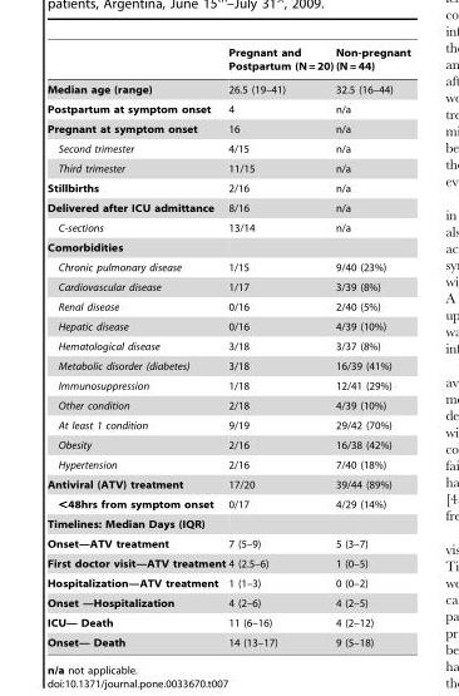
<table><thead><tr><td></td><td>Pregnant and Postpartum (N = 20)</td><td>Non-pregnant (N = 44)</td></tr></thead><tbody><tr><td>Median age (range)</td><td>26.5 (19–41)</td><td>32.5 (16–44)</td></tr><tr><td>Postpartum at symptom onset</td><td>4</td><td>n/a</td></tr><tr><td>Pregnant at symptom onset</td><td>16</td><td>n/a</td></tr><tr><td>Second trimester</td><td>4/15</td><td>n/a</td></tr><tr><td>Third trimester</td><td>11/15</td><td>n/a</td></tr><tr><td>Stillbirths</td><td>2/16</td><td>n/a</td></tr><tr><td>Delivered after ICU admittance</td><td>8/16</td><td>n/a</td></tr><tr><td>C-sections</td><td>13/14</td><td>n/a</td></tr><tr><td colspan="3">Comorbidities</td></tr><tr><td>Chronic pulmonary disease</td><td>1/15</td><td>9/40 (23%)</td></tr><tr><td>Cardiovascular disease</td><td>1/17</td><td>3/39 (8%)</td></tr><tr><td>Renal disease</td><td>0/16</td><td>2/40 (5%)</td></tr><tr><td>Hepatic disease</td><td>0/16</td><td>4/39 (10%)</td></tr><tr><td>Hematological disease</td><td>3/18</td><td>3/37 (8%)</td></tr><tr><td>Metabolic disorder (diabetes)</td><td>3/18</td><td>16/39 (41%)</td></tr><tr><td>Immunosuppression</td><td>1/18</td><td>12/41 (29%)</td></tr><tr><td>Other condition</td><td>2/18</td><td>4/39 (10%)</td></tr><tr><td>At least 1 condition</td><td>9/19</td><td>29/42 (70%)</td></tr><tr><td>Obesity</td><td>2/16</td><td>16/38 (42%)</td></tr><tr><td>Hypertension</td><td>2/16</td><td>7/40 (18%)</td></tr><tr><td>Antiviral (ATV) treatment</td><td>17/20</td><td>39/44 (89%)</td></tr><tr><td>&lt;48hrs from symptom onset</td><td>0/17</td><td>4/29 (14%)</td></tr><tr><td colspan="3">Timelines: Median Days (IQR)</td></tr><tr><td>Onset—ATV treatment</td><td>7 (5–9)</td><td>5 (3–7)</td></tr><tr><td>First doctor visit—ATV treatment</td><td>4 (2.5–6)</td><td>1 (0–5)</td></tr><tr><td>Hospitalization—ATV treatment</td><td>1 (1–3)</td><td>0 (0–2)</td></tr><tr><td>Onset —Hospitalization</td><td>4 (2–6)</td><td>4 (2–5)</td></tr><tr><td>ICU— Death</td><td>11 (6–16)</td><td>4 (2–12)</td></tr><tr><td>Onset— Death</td><td>14 (13–17)</td><td>9 (5–18)</td></tr></tbody></table>